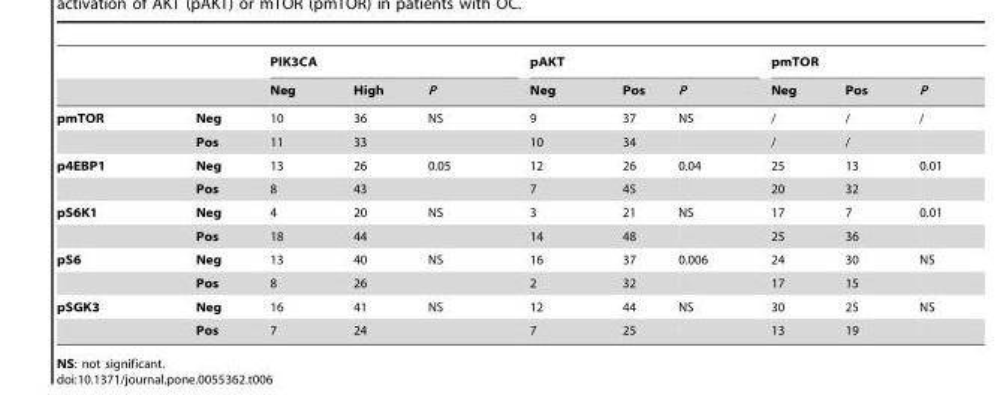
<table><thead><tr><td rowspan="2"></td><td rowspan="2"></td><td colspan="3">PIK3CA</td><td colspan="3">pAKT</td><td colspan="3">pmTOR</td></tr><tr><td>Neg</td><td>High</td><td>P</td><td>Neg</td><td>Pos</td><td>P</td><td>Neg</td><td>Pos</td><td>P</td></tr></thead><tbody><tr><td rowspan="2">pmTOR</td><td>Neg</td><td>10</td><td>36</td><td>NS</td><td>9</td><td>37</td><td>NS</td><td>/</td><td>/</td><td>/</td></tr><tr><td>Pos</td><td>11</td><td>33</td><td></td><td>10</td><td>34</td><td></td><td>/</td><td>/</td><td></td></tr><tr><td rowspan="2">p4EBP1</td><td>Neg</td><td>13</td><td>26</td><td>0.05</td><td>12</td><td>26</td><td>0.04</td><td>25</td><td>13</td><td>0.01</td></tr><tr><td>Pos</td><td>8</td><td>43</td><td></td><td>7</td><td>45</td><td></td><td>20</td><td>32</td><td></td></tr><tr><td rowspan="2">pS6K1</td><td>Neg</td><td>4</td><td>20</td><td>NS</td><td>3</td><td>21</td><td>NS</td><td>17</td><td>7</td><td>0.01</td></tr><tr><td>Pos</td><td>18</td><td>44</td><td></td><td>14</td><td>48</td><td></td><td>25</td><td>36</td><td></td></tr><tr><td rowspan="2">pS6</td><td>Neg</td><td>13</td><td>40</td><td>NS</td><td>16</td><td>37</td><td>0.006</td><td>24</td><td>30</td><td>NS</td></tr><tr><td>Pos</td><td>8</td><td>26</td><td></td><td>2</td><td>32</td><td></td><td>17</td><td>15</td><td></td></tr><tr><td rowspan="2">pSGK3</td><td>Neg</td><td>16</td><td>41</td><td>NS</td><td>12</td><td>44</td><td>NS</td><td>30</td><td>25</td><td>NS</td></tr><tr><td>Pos</td><td>7</td><td>24</td><td></td><td>7</td><td>25</td><td></td><td>13</td><td>19</td><td></td></tr></tbody></table>